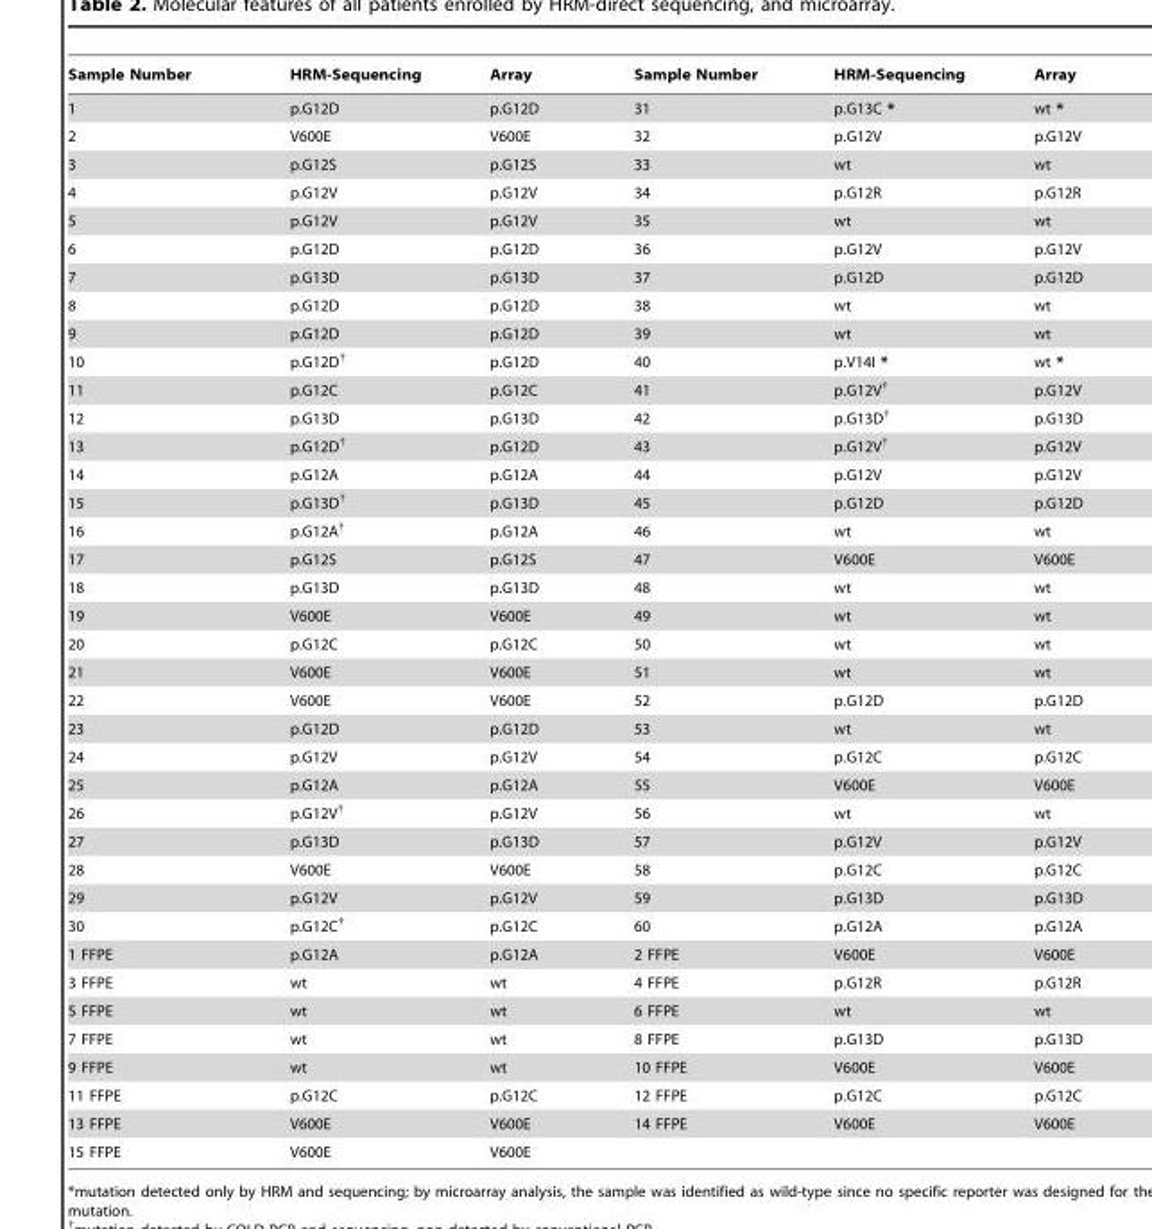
<table><thead><tr><td>Sample Number</td><td>HRM-Sequencing</td><td>Array</td><td>Sample Number</td><td>HRM-Sequencing</td><td>Array</td></tr></thead><tbody><tr><td>1</td><td>p.G12D</td><td>p.G12D</td><td>31</td><td>p.G13C *</td><td>wt *</td></tr><tr><td>2</td><td>V600E</td><td>V600E</td><td>32</td><td>p.G12V</td><td>p.G12V</td></tr><tr><td>3</td><td>p.G12S</td><td>p.G12S</td><td>33</td><td>wt</td><td>wt</td></tr><tr><td>4</td><td>p.G12V</td><td>p.G12V</td><td>34</td><td>p.G12R</td><td>p.G12R</td></tr><tr><td>5</td><td>p.G12V</td><td>p.G12V</td><td>35</td><td>wt</td><td>wt</td></tr><tr><td>6</td><td>p.G12D</td><td>p.G12D</td><td>36</td><td>p.G12V</td><td>p.G12V</td></tr><tr><td>7</td><td>p.G13D</td><td>p.G13D</td><td>37</td><td>p.G12D</td><td>p.G12D</td></tr><tr><td>8</td><td>p.G12D</td><td>p.G12D</td><td>38</td><td>wt</td><td>wt</td></tr><tr><td>9</td><td>p.G12D</td><td>p.G12D</td><td>39</td><td>wt</td><td>wt</td></tr><tr><td>10</td><td>p.G12D†</td><td>p.G12D</td><td>40</td><td>p.V14I *</td><td>wt *</td></tr><tr><td>11</td><td>p.G12C</td><td>p.G12C</td><td>41</td><td>p.G12V†</td><td>p.G12V</td></tr><tr><td>12</td><td>p.G13D</td><td>p.G13D</td><td>42</td><td>p.G13D†</td><td>p.G13D</td></tr><tr><td>13</td><td>p.G12D†</td><td>p.G12D</td><td>43</td><td>p.G12V†</td><td>p.G12V</td></tr><tr><td>14</td><td>p.G12A</td><td>p.G12A</td><td>44</td><td>p.G12V</td><td>p.G12V</td></tr><tr><td>15</td><td>p.G13D†</td><td>p.G13D</td><td>45</td><td>p.G12D</td><td>p.G12D</td></tr><tr><td>16</td><td>p.G12A†</td><td>p.G12A</td><td>46</td><td>wt</td><td>wt</td></tr><tr><td>17</td><td>p.G12S</td><td>p.G12S</td><td>47</td><td>V600E</td><td>V600E</td></tr><tr><td>18</td><td>p.G13D</td><td>p.G13D</td><td>48</td><td>wt</td><td>wt</td></tr><tr><td>19</td><td>V600E</td><td>V600E</td><td>49</td><td>wt</td><td>wt</td></tr><tr><td>20</td><td>p.G12C</td><td>p.G12C</td><td>50</td><td>wt</td><td>wt</td></tr><tr><td>21</td><td>V600E</td><td>V600E</td><td>51</td><td>wt</td><td>wt</td></tr><tr><td>22</td><td>V600E</td><td>V600E</td><td>52</td><td>p.G12D</td><td>p.G12D</td></tr><tr><td>23</td><td>p.G12D</td><td>p.G12D</td><td>53</td><td>wt</td><td>wt</td></tr><tr><td>24</td><td>p.G12V</td><td>p.G12V</td><td>54</td><td>p.G12C</td><td>p.G12C</td></tr><tr><td>25</td><td>p.G12A</td><td>p.G12A</td><td>55</td><td>V600E</td><td>V600E</td></tr><tr><td>26</td><td>p.G12V†</td><td>p.G12V</td><td>56</td><td>wt</td><td>wt</td></tr><tr><td>27</td><td>p.G13D</td><td>p.G13D</td><td>57</td><td>p.G12V</td><td>p.G12V</td></tr><tr><td>28</td><td>V600E</td><td>V600E</td><td>58</td><td>p.G12C</td><td>p.G12C</td></tr><tr><td>29</td><td>p.G12V</td><td>p.G12V</td><td>59</td><td>p.G13D</td><td>p.G13D</td></tr><tr><td>30</td><td>p.G12C†</td><td>p.G12C</td><td>60</td><td>p.G12A</td><td>p.G12A</td></tr><tr><td>1 FFPE</td><td>p.G12A</td><td>p.G12A</td><td>2 FFPE</td><td>V600E</td><td>V600E</td></tr><tr><td>3 FFPE</td><td>wt</td><td>wt</td><td>4 FFPE</td><td>p.G12R</td><td>p.G12R</td></tr><tr><td>5 FFPE</td><td>wt</td><td>wt</td><td>6 FFPE</td><td>wt</td><td>wt</td></tr><tr><td>7 FFPE</td><td>wt</td><td>wt</td><td>8 FFPE</td><td>p.G13D</td><td>p.G13D</td></tr><tr><td>9 FFPE</td><td>wt</td><td>wt</td><td>10 FFPE</td><td>V600E</td><td>V600E</td></tr><tr><td>11 FFPE</td><td>p.G12C</td><td>p.G12C</td><td>12 FFPE</td><td>p.G12C</td><td>p.G12C</td></tr><tr><td>13 FFPE</td><td>V600E</td><td>V600E</td><td>14 FFPE</td><td>V600E</td><td>V600E</td></tr><tr><td>15 FFPE</td><td>V600E</td><td>V600E</td><td></td><td></td><td></td></tr></tbody></table>